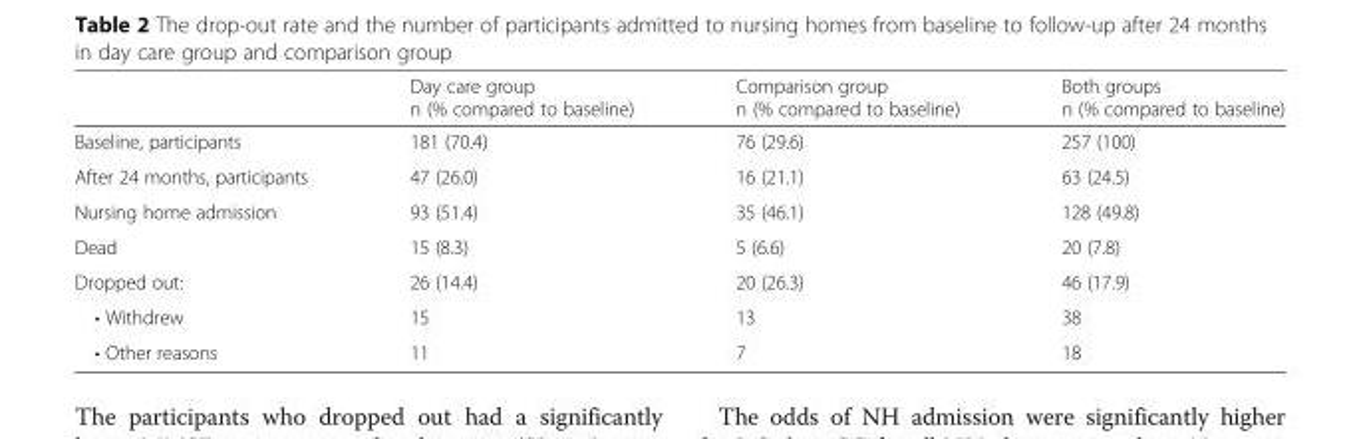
<table><thead><tr><td></td><td>Day care group n (% compared to baseline)</td><td>Comparison group n (% compared to baseline)</td><td>Both groups n (% compared to baseline)</td></tr></thead><tbody><tr><td>Baseline, participants</td><td>181 (70.4)</td><td>76 (29.6)</td><td>257 (100)</td></tr><tr><td>After 24 months, participants</td><td>47 (26.0)</td><td>16 (21.1)</td><td>63 (24.5)</td></tr><tr><td>Nursing home admission</td><td>93 (51.4)</td><td>35 (46.1)</td><td>128 (49.8)</td></tr><tr><td>Dead</td><td>15 (8.3)</td><td>5 (6.6)</td><td>20 (7.8)</td></tr><tr><td>Dropped out:</td><td>26 (14.4)</td><td>20 (26.3)</td><td>46 (17.9)</td></tr><tr><td>• Withdrew</td><td>15</td><td>13</td><td>38</td></tr><tr><td>• Other reasons</td><td>11</td><td>7</td><td>18</td></tr></tbody></table>